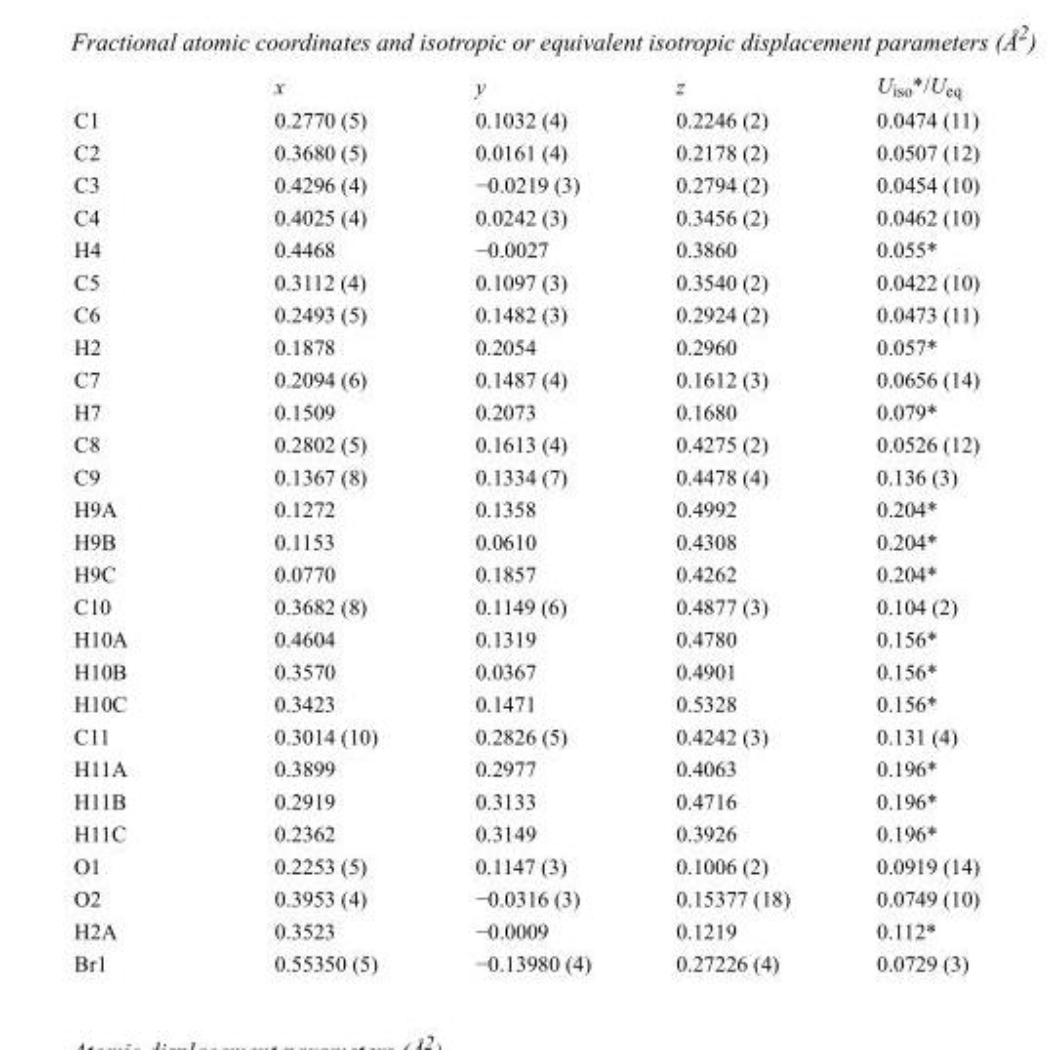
<table><thead><tr><td></td><td>x</td><td>y</td><td>z</td><td>U<sub>iso</sub>*/U<sub>eq</sub></td></tr></thead><tbody><tr><td>C1</td><td>0.2770 (5)</td><td>0.1032 (4)</td><td>0.2246 (2)</td><td>0.0474 (11)</td></tr><tr><td>C2</td><td>0.3680 (5)</td><td>0.0161 (4)</td><td>0.2178 (2)</td><td>0.0507 (12)</td></tr><tr><td>C3</td><td>0.4296 (4)</td><td>−0.0219 (3)</td><td>0.2794 (2)</td><td>0.0454 (10)</td></tr><tr><td>C4</td><td>0.4025 (4)</td><td>0.0242 (3)</td><td>0.3456 (2)</td><td>0.0462 (10)</td></tr><tr><td>H4</td><td>0.4468</td><td>−0.0027</td><td>0.3860</td><td>0.055*</td></tr><tr><td>C5</td><td>0.3112 (4)</td><td>0.1097 (3)</td><td>0.3540 (2)</td><td>0.0422 (10)</td></tr><tr><td>C6</td><td>0.2493 (5)</td><td>0.1482 (3)</td><td>0.2924 (2)</td><td>0.0473 (11)</td></tr><tr><td>H2</td><td>0.1878</td><td>0.2054</td><td>0.2960</td><td>0.057*</td></tr><tr><td>C7</td><td>0.2094 (6)</td><td>0.1487 (4)</td><td>0.1612 (3)</td><td>0.0656 (14)</td></tr><tr><td>H7</td><td>0.1509</td><td>0.2073</td><td>0.1680</td><td>0.079*</td></tr><tr><td>C8</td><td>0.2802 (5)</td><td>0.1613 (4)</td><td>0.4275 (2)</td><td>0.0526 (12)</td></tr><tr><td>C9</td><td>0.1367 (8)</td><td>0.1334 (7)</td><td>0.4478 (4)</td><td>0.136 (3)</td></tr><tr><td>H9A</td><td>0.1272</td><td>0.1358</td><td>0.4992</td><td>0.204*</td></tr><tr><td>H9B</td><td>0.1153</td><td>0.0610</td><td>0.4308</td><td>0.204*</td></tr><tr><td>H9C</td><td>0.0770</td><td>0.1857</td><td>0.4262</td><td>0.204*</td></tr><tr><td>C10</td><td>0.3682 (8)</td><td>0.1149 (6)</td><td>0.4877 (3)</td><td>0.104 (2)</td></tr><tr><td>H10A</td><td>0.4604</td><td>0.1319</td><td>0.4780</td><td>0.156*</td></tr><tr><td>H10B</td><td>0.3570</td><td>0.0367</td><td>0.4901</td><td>0.156*</td></tr><tr><td>H10C</td><td>0.3423</td><td>0.1471</td><td>0.5328</td><td>0.156*</td></tr><tr><td>C11</td><td>0.3014 (10)</td><td>0.2826 (5)</td><td>0.4242 (3)</td><td>0.131 (4)</td></tr><tr><td>H11A</td><td>0.3899</td><td>0.2977</td><td>0.4063</td><td>0.196*</td></tr><tr><td>H11B</td><td>0.2919</td><td>0.3133</td><td>0.4716</td><td>0.196*</td></tr><tr><td>H11C</td><td>0.2362</td><td>0.3149</td><td>0.3926</td><td>0.196*</td></tr><tr><td>O1</td><td>0.2253 (5)</td><td>0.1147 (3)</td><td>0.1006 (2)</td><td>0.0919 (14)</td></tr><tr><td>O2</td><td>0.3953 (4)</td><td>−0.0316 (3)</td><td>0.15377 (18)</td><td>0.0749 (10)</td></tr><tr><td>H2A</td><td>0.3523</td><td>−0.0009</td><td>0.1219</td><td>0.112*</td></tr><tr><td>Br1</td><td>0.55350 (5)</td><td>−0.13980 (4)</td><td>0.27226 (4)</td><td>0.0729 (3)</td></tr></tbody></table>